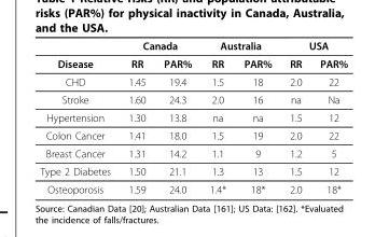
<table><thead><tr><td rowspan="2">Disease</td><td colspan="2">Canada</td><td colspan="2">Australia</td><td colspan="2">USA</td></tr><tr><td>RR</td><td>PAR%</td><td>RR</td><td>PAR%</td><td>RR</td><td>PAR%</td></tr></thead><tbody><tr><td>CHD</td><td>1.45</td><td>19.4</td><td>1.5</td><td>18</td><td>2.0</td><td>22</td></tr><tr><td>Stroke</td><td>1.60</td><td>24.3</td><td>2.0</td><td>16</td><td>na</td><td>Na</td></tr><tr><td>Hypertension</td><td>1.30</td><td>13.8</td><td>na</td><td>na</td><td>1.5</td><td>12</td></tr><tr><td>Colon Cancer</td><td>1.41</td><td>18.0</td><td>1.5</td><td>19</td><td>2.0</td><td>22</td></tr><tr><td>Breast Cancer</td><td>1.31</td><td>14.2</td><td>1.1</td><td>9</td><td>1.2</td><td>5</td></tr><tr><td>Type 2 Diabetes</td><td>1.50</td><td>21.1</td><td>1.3</td><td>13</td><td>1.5</td><td>12</td></tr><tr><td>Osteoporosis</td><td>1.59</td><td>24.0</td><td>1.4*</td><td>18*</td><td>2.0</td><td>18*</td></tr></tbody></table>